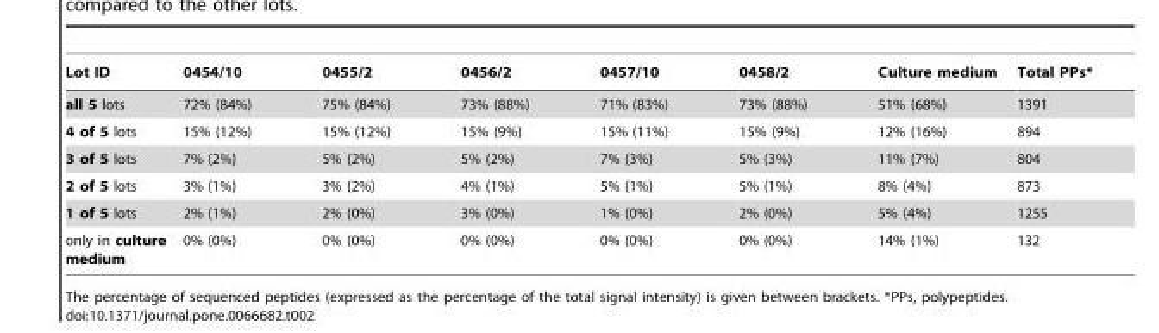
<table><thead><tr><td>Lot ID</td><td>0454/10</td><td>0455/2</td><td>0456/2</td><td>0457/10</td><td>0458/2</td><td>Culture medium</td><td>Total PPs*</td></tr></thead><tbody><tr><td>all 5 lots</td><td>72% (84%)</td><td>75% (84%)</td><td>73% (88%)</td><td>71% (83%)</td><td>73% (88%)</td><td>51% (68%)</td><td>1391</td></tr><tr><td>4 of 5 lots</td><td>15% (12%)</td><td>15% (12%)</td><td>15% (9%)</td><td>15% (11%)</td><td>15% (9%)</td><td>12% (16%)</td><td>894</td></tr><tr><td>3 of 5 lots</td><td>7% (2%)</td><td>5% (2%)</td><td>5% (2%)</td><td>7% (3%)</td><td>5% (3%)</td><td>11% (7%)</td><td>804</td></tr><tr><td>2 of 5 lots</td><td>3% (1%)</td><td>3% (2%)</td><td>4% (1%)</td><td>5% (1%)</td><td>5% (1%)</td><td>8% (4%)</td><td>873</td></tr><tr><td>1 of 5 lots</td><td>2% (1%)</td><td>2% (0%)</td><td>3% (0%)</td><td>1% (0%)</td><td>2% (0%)</td><td>5% (4%)</td><td>1255</td></tr><tr><td>only in culture medium</td><td>0% (0%)</td><td>0% (0%)</td><td>0% (0%)</td><td>0% (0%)</td><td>0% (0%)</td><td>14% (1%)</td><td>132</td></tr></tbody></table>